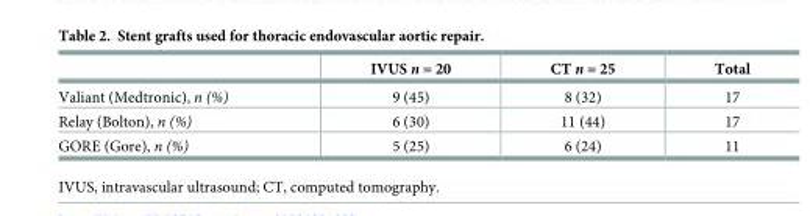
<table><thead><tr><td></td><td>IVUS n = 20</td><td>CT n = 25</td><td>Total</td></tr></thead><tbody><tr><td>Valiant (Medtronic), n (%)</td><td>9 (45)</td><td>8 (32)</td><td>17</td></tr><tr><td>Relay (Bolton), n (%)</td><td>6 (30)</td><td>11 (44)</td><td>17</td></tr><tr><td>GORE (Gore), n (%)</td><td>5 (25)</td><td>6 (24)</td><td>11</td></tr></tbody></table>